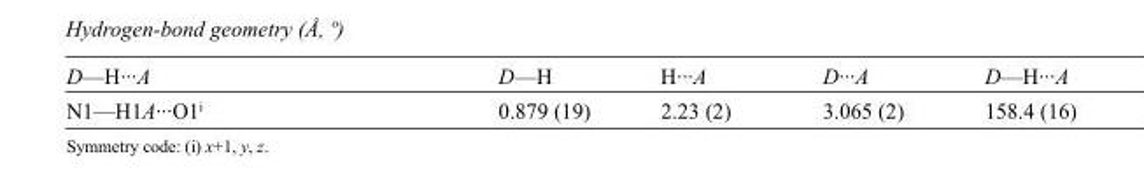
<table><tbody><tr><td>D—H···A</td><td>D—H</td><td>H···A</td><td>D···A</td><td>D—H···A</td></tr><tr><td>N1—H1A···O1<sup>i</sup></td><td>0.879 (19)</td><td>2.23 (2)</td><td>3.065 (2)</td><td>158.4 (16)</td></tr></tbody></table>